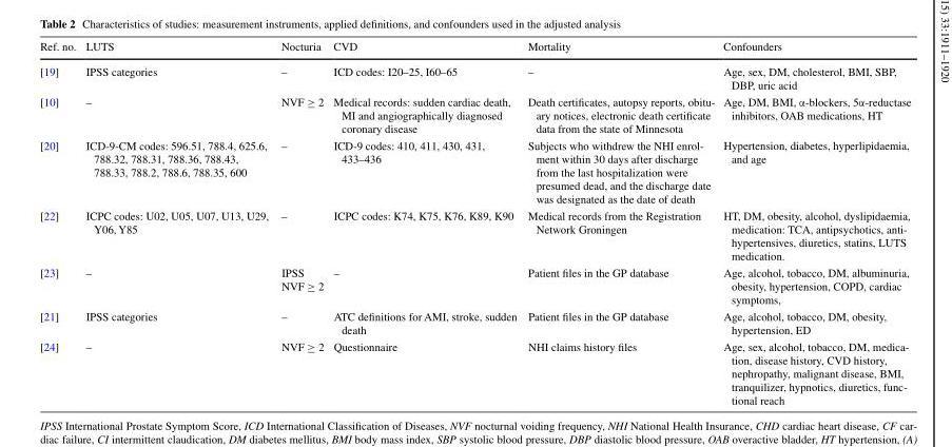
<table><thead><tr><td>Ref. no.</td><td>LUTS</td><td>Nocturia</td><td>CVD</td><td>Mortality</td><td>Confounders</td></tr></thead><tbody><tr><td>[19]</td><td>IPSS categories</td><td>–</td><td>ICD codes: I20–25, I60–65</td><td>–</td><td>Age, sex, DM, cholesterol, BMI, SBP, DBP, uric acid</td></tr><tr><td>[10]</td><td>–</td><td>NVF ≥ 2</td><td>Medical records: sudden cardiac death, MI and angiographically diagnosed coronary disease</td><td>Death certificates, autopsy reports, obitu- ary notices, electronic death certificate data from the state of Minnesota</td><td>Age, DM, BMI, α-blockers, 5α-reductase inhibitors, OAB medications, HT</td></tr><tr><td>[20]</td><td>ICD-9-CM codes: 596.51, 788.4, 625.6, 788.32, 788.31, 788.36, 788.43, 788.33, 788.2, 788.6, 788.35, 600</td><td>–</td><td>ICD-9 codes: 410, 411, 430, 431, 433–436</td><td>Subjects who withdrew the NHI enrol- ment within 30 days after discharge from the last hospitalization were presumed dead, and the discharge date was designated as the date of death</td><td>Hypertension, diabetes, hyperlipidaemia, and age</td></tr><tr><td>[22]</td><td>ICPC codes: U02, U05, U07, U13, U29, Y06, Y85</td><td>–</td><td>ICPC codes: K74, K75, K76, K89, K90</td><td>Medical records from the Registration Network Groningen</td><td>HT, DM, obesity, alcohol, dyslipidaemia, medication: TCA, antipsychotics, anti- hypertensives, diuretics, statins, LUTS medication.</td></tr><tr><td>[23]</td><td>–</td><td>IPSS NVF ≥ 2</td><td>–</td><td>Patient files in the GP database</td><td>Age, alcohol, tobacco, DM, albuminuria, obesity, hypertension, COPD, cardiac symptoms,</td></tr><tr><td>[21]</td><td>IPSS categories</td><td>–</td><td>ATC definitions for AMI, stroke, sudden death</td><td>Patient files in the GP database</td><td>Age, alcohol, tobacco, DM, obesity, hypertension, ED</td></tr><tr><td>[24]</td><td>–</td><td>NVF ≥ 2</td><td>Questionnaire</td><td>NHI claims history files</td><td>Age, sex, alcohol, tobacco, DM, medica- tion, disease history, CVD history, nephropathy, malignant disease, BMI, tranquilizer, hypnotics, diuretics, func- tional reach</td></tr></tbody></table>